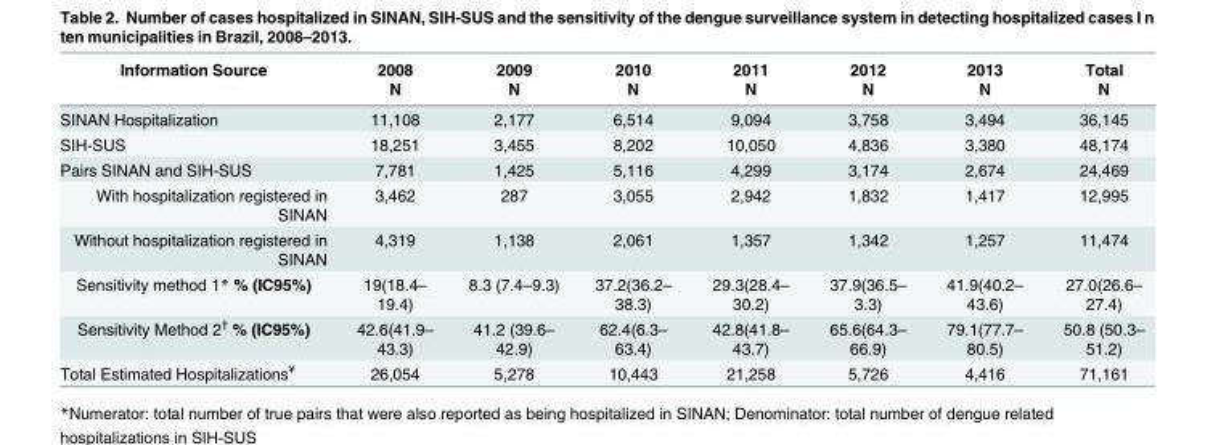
<table><thead><tr><td rowspan="2">Information Source</td><td rowspan="2">2008 N</td><td rowspan="2">2009 N</td><td rowspan="2">2010 N</td><td rowspan="2">2011 N</td><td rowspan="2">2012 N</td><td rowspan="2">2013 N</td><td rowspan="2">Total N</td></tr><tr></tr></thead><tbody><tr><td>SINAN Hospitalization</td><td>11,108</td><td>2,177</td><td>6,514</td><td>9,094</td><td>3,758</td><td>3,494</td><td>36,145</td></tr><tr><td>SIH-SUS</td><td>18,251</td><td>3,455</td><td>8,202</td><td>10,050</td><td>4,836</td><td>3,380</td><td>48,174</td></tr><tr><td>Pairs SINAN and SIH-SUS</td><td>7,781</td><td>1,425</td><td>5,116</td><td>4,299</td><td>3,174</td><td>2,674</td><td>24,469</td></tr><tr><td>With hospitalization registered in SINAN</td><td>3,462</td><td>287</td><td>3,055</td><td>2,942</td><td>1,832</td><td>1,417</td><td>12,995</td></tr><tr><td>Without hospitalization registered in SINAN</td><td>4,319</td><td>1,138</td><td>2,061</td><td>1,357</td><td>1,342</td><td>1,257</td><td>11,474</td></tr><tr><td>Sensitivity method 1* % (IC95%)</td><td>19(18.4– 19.4)</td><td>8.3 (7.4–9.3)</td><td>37.2(36.2– 38.3)</td><td>29.3(28.4– 30.2)</td><td>37.9(36.5– 3.3)</td><td>41.9(40.2– 43.6)</td><td>27.0(26.6– 27.4)</td></tr><tr><td>Sensitivity Method 2<sup>†</sup> % (IC95%)</td><td>42.6(41.9– 43.3)</td><td>41.2 (39.6– 42.9)</td><td>62.4(6.3– 63.4)</td><td>42.8(41.8– 43.7)</td><td>65.6(64.3– 66.9)</td><td>79.1(77.7– 80.5)</td><td>50.8 (50.3– 51.2)</td></tr><tr><td>Total Estimated Hospitalizations<sup>¥</sup></td><td>26,054</td><td>5,278</td><td>10,443</td><td>21,258</td><td>5,726</td><td>4,416</td><td>71,161</td></tr></tbody></table>